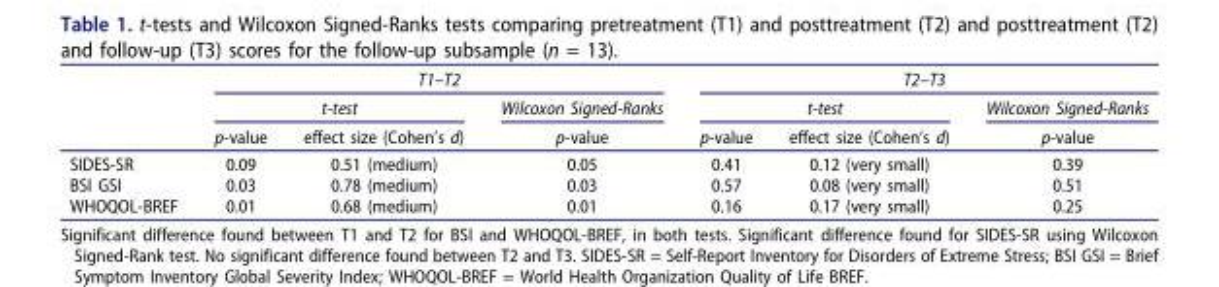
<table><thead><tr><td rowspan="3"></td><td colspan="3">T1–T2</td><td colspan="3">T2–T3</td></tr><tr><td colspan="2">t-test</td><td rowspan="2">Wilcoxon Signed-Ranks p-value</td><td colspan="2">t-test</td><td rowspan="2">Wilcoxon Signed-Ranks p-value</td></tr><tr><td>p-value</td><td>effect size (Cohen’s d)</td><td>p-value</td><td>effect size (Cohen’s d)</td></tr></thead><tbody><tr><td>SIDES-SR</td><td>0.09</td><td>0.51 (medium)</td><td>0.05</td><td>0.41</td><td>0.12 (very small)</td><td>0.39</td></tr><tr><td>BSI GSI</td><td>0.03</td><td>0.78 (medium)</td><td>0.03</td><td>0.57</td><td>0.08 (very small)</td><td>0.51</td></tr><tr><td>WHOQOL-BREF</td><td>0.01</td><td>0.68 (medium)</td><td>0.01</td><td>0.16</td><td>0.17 (very small)</td><td>0.25</td></tr></tbody></table>